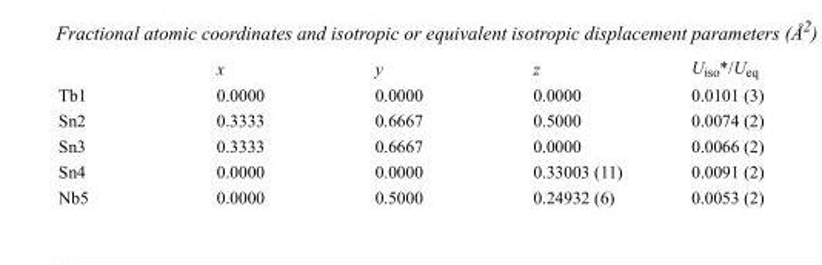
<table><thead><tr><td></td><td>x</td><td>y</td><td>z</td><td>U<sub>iso</sub>*/U<sub>eq</sub></td></tr></thead><tbody><tr><td>Tb1</td><td>0.0000</td><td>0.0000</td><td>0.0000</td><td>0.0101 (3)</td></tr><tr><td>Sn2</td><td>0.3333</td><td>0.6667</td><td>0.5000</td><td>0.0074 (2)</td></tr><tr><td>Sn3</td><td>0.3333</td><td>0.6667</td><td>0.0000</td><td>0.0066 (2)</td></tr><tr><td>Sn4</td><td>0.0000</td><td>0.0000</td><td>0.33003 (11)</td><td>0.0091 (2)</td></tr><tr><td>Nb5</td><td>0.0000</td><td>0.5000</td><td>0.24932 (6)</td><td>0.0053 (2)</td></tr></tbody></table>